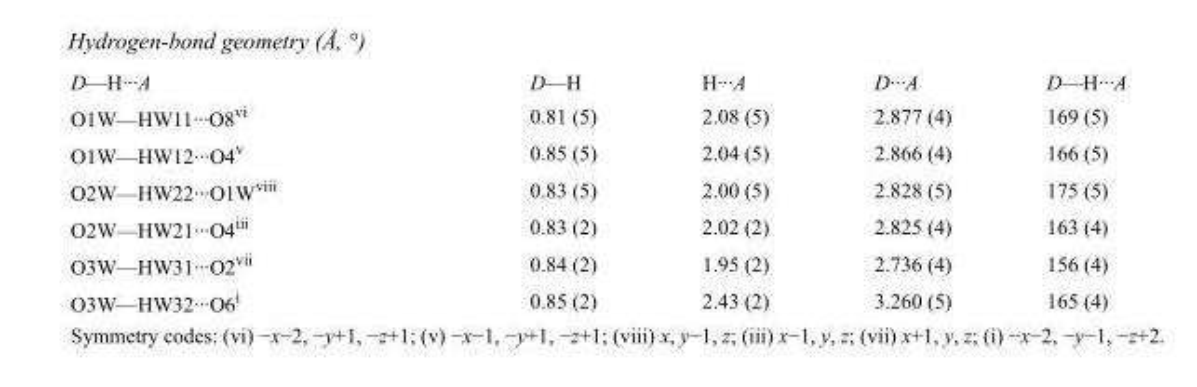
<table><tbody><tr><td>D—H···A</td><td>D—H</td><td>H···A</td><td>D···A</td><td>D—H···A</td></tr><tr><td>O1W—HW11···O8<sup>vi</sup></td><td>0.81 (5)</td><td>2.08 (5)</td><td>2.877 (4)</td><td>169 (5)</td></tr><tr><td>O1W—HW12···O4<sup>v</sup></td><td>0.85 (5)</td><td>2.04 (5)</td><td>2.866 (4)</td><td>166 (5)</td></tr><tr><td>O2W—HW22···O1W<sup>viii</sup></td><td>0.83 (5)</td><td>2.00 (5)</td><td>2.828 (5)</td><td>175 (5)</td></tr><tr><td>O2W—HW21···O4<sup>iii</sup></td><td>0.83 (2)</td><td>2.02 (2)</td><td>2.825 (4)</td><td>163 (4)</td></tr><tr><td>O3W—HW31···O2<sup>vii</sup></td><td>0.84 (2)</td><td>1.95 (2)</td><td>2.736 (4)</td><td>156 (4)</td></tr><tr><td>O3W—HW32···O6<sup>i</sup></td><td>0.85 (2)</td><td>2.43 (2)</td><td>3.260 (5)</td><td>165 (4)</td></tr></tbody></table>